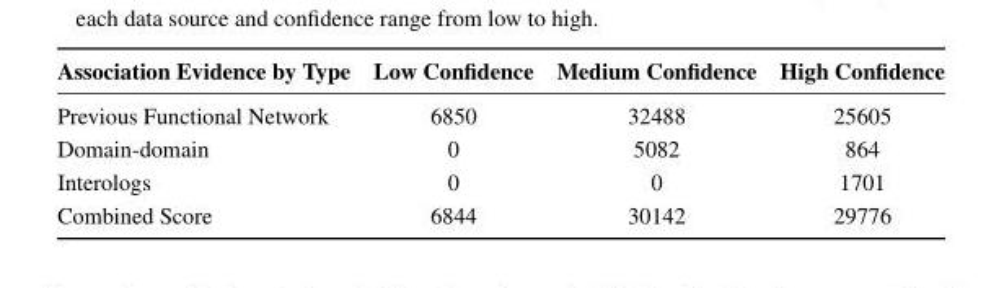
<table><thead><tr><td>Association Evidence by Type</td><td>Low Confidence</td><td>Medium Confidence</td><td>High Confidence</td></tr></thead><tbody><tr><td>Previous Functional Network</td><td>6850</td><td>32488</td><td>25605</td></tr><tr><td>Domain-domain</td><td>0</td><td>5082</td><td>864</td></tr><tr><td>Interologs</td><td>0</td><td>0</td><td>1701</td></tr><tr><td>Combined Score</td><td>6844</td><td>30142</td><td>29776</td></tr></tbody></table>